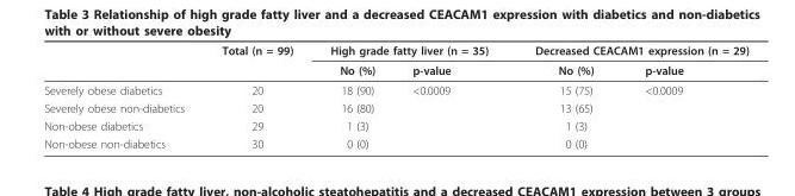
<table><thead><tr><td rowspan="2"></td><td rowspan="2">Total (n = 99)</td><td colspan="2">High grade fatty liver (n = 35)</td><td colspan="2">Decreased CEACAM1 expression (n = 29)</td></tr><tr><td>No (%)</td><td>p-value</td><td>No (%)</td><td>p-value</td></tr></thead><tbody><tr><td>Severely obese diabetics</td><td>20</td><td>18 (90)</td><td>&lt;0.0009</td><td>15 (75)</td><td>&lt;0.0009</td></tr><tr><td>Severely obese non-diabetics</td><td>20</td><td>16 (80)</td><td></td><td>13 (65)</td><td></td></tr><tr><td>Non-obese diabetics</td><td>29</td><td>1 (3)</td><td></td><td>1 (3)</td><td></td></tr><tr><td>Non-obese non-diabetics</td><td>30</td><td>0 (0)</td><td></td><td>0 (0)</td><td></td></tr></tbody></table>